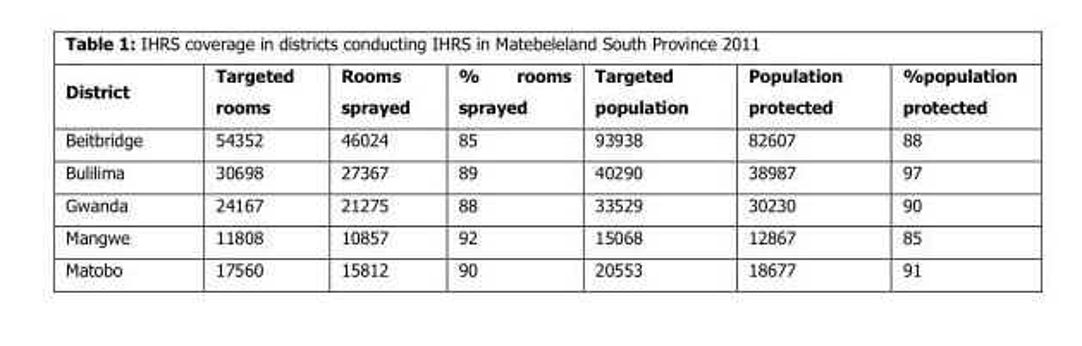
<table><thead><tr><td>District</td><td>Targeted rooms</td><td>Rooms sprayed</td><td>% rooms sprayed</td><td>Targeted population</td><td>Population protected</td><td>%population protected</td></tr></thead><tbody><tr><td>Beitbridge</td><td>54352</td><td>46024</td><td>85</td><td>93938</td><td>82607</td><td>88</td></tr><tr><td>Bulilima</td><td>30698</td><td>27367</td><td>89</td><td>40290</td><td>38987</td><td>97</td></tr><tr><td>Gwanda</td><td>24167</td><td>21275</td><td>88</td><td>33529</td><td>30230</td><td>90</td></tr><tr><td>Mangwe</td><td>11808</td><td>10857</td><td>92</td><td>15068</td><td>12867</td><td>85</td></tr><tr><td>Matobo</td><td>17560</td><td>15812</td><td>90</td><td>20553</td><td>18677</td><td>91</td></tr></tbody></table>